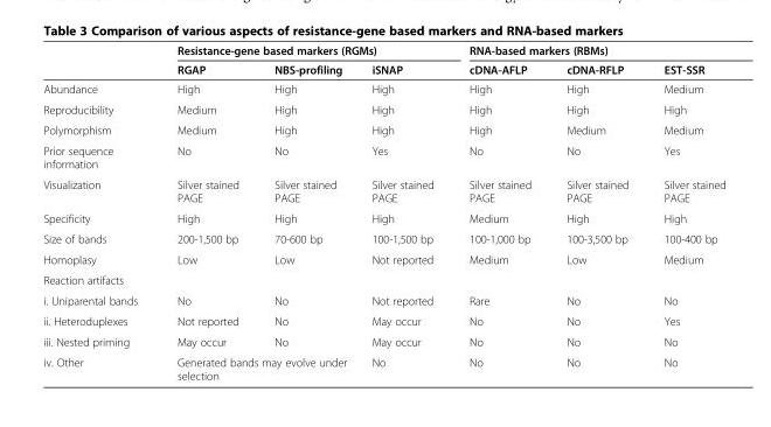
<table><thead><tr><td rowspan="2"></td><td colspan="3">Resistance-gene based markers (RGMs)</td><td colspan="3">RNA-based markers (RBMs)</td></tr><tr><td>RGAP</td><td>NBS-profiling</td><td>iSNAP</td><td>cDNA-AFLP</td><td>cDNA-RFLP</td><td>EST-SSR</td></tr></thead><tbody><tr><td>Abundance</td><td>High</td><td>High</td><td>High</td><td>High</td><td>High</td><td>Medium</td></tr><tr><td>Reproducibility</td><td>Medium</td><td>High</td><td>High</td><td>High</td><td>High</td><td>High</td></tr><tr><td>Polymorphism</td><td>Medium</td><td>High</td><td>High</td><td>High</td><td>Medium</td><td>Medium</td></tr><tr><td>Prior sequence information</td><td>No</td><td>No</td><td>Yes</td><td>No</td><td>No</td><td>Yes</td></tr><tr><td>Visualization</td><td>Silver stained PAGE</td><td>Silver stained PAGE</td><td>Silver stained PAGE</td><td>Silver stained PAGE</td><td>Silver stained PAGE</td><td>Silver stained PAGE</td></tr><tr><td>Specificity</td><td>High</td><td>High</td><td>High</td><td>Medium</td><td>High</td><td>High</td></tr><tr><td>Size of bands</td><td>200-1,500 bp</td><td>70-600 bp</td><td>100-1,500 bp</td><td>100-1,000 bp</td><td>100-3,500 bp</td><td>100-400 bp</td></tr><tr><td>Homoplasy</td><td>Low</td><td>Low</td><td>Not reported</td><td>Medium</td><td>Low</td><td>Medium</td></tr><tr><td colspan="7">Reaction artifacts</td></tr><tr><td>i. Uniparental bands</td><td>No</td><td>No</td><td>Not reported</td><td>Rare</td><td>No</td><td>No</td></tr><tr><td>ii. Heteroduplexes</td><td>Not reported</td><td>No</td><td>May occur</td><td>No</td><td>No</td><td>Yes</td></tr><tr><td>iii. Nested priming</td><td>May occur</td><td>No</td><td>May occur</td><td>No</td><td>No</td><td>No</td></tr><tr><td>iv. Other</td><td colspan="2">Generated bands may evolve under selection</td><td>No</td><td>No</td><td>No</td><td>No</td></tr></tbody></table>